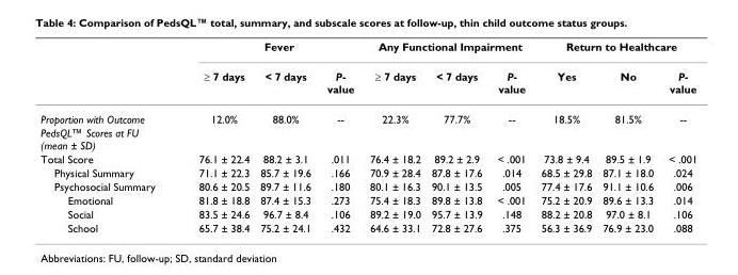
<table><thead><tr><td rowspan="2"></td><td colspan="3">Fever</td><td colspan="3">Any Functional Impairment</td><td colspan="3">Return to Healthcare</td></tr><tr><td>≥ 7 days</td><td>&lt; 7 days</td><td>P- value</td><td>≥ 7 days</td><td>&lt; 7 days</td><td>P- value</td><td>Yes</td><td>No</td><td>P- value</td></tr></thead><tbody><tr><td>Proportion with Outcome</td><td>12.0%</td><td>88.0%</td><td>--</td><td>22.3%</td><td>77.7%</td><td>--</td><td>18.5%</td><td>81.5%</td><td>--</td></tr><tr><td colspan="10">PedsQL™ Scores at FU (mean ± SD)</td></tr><tr><td>Total Score</td><td>76.1 ± 22.4</td><td>88.2 ± 3.1</td><td>.011</td><td>76.4 ± 18.2</td><td>89.2 ± 2.9</td><td>&lt; .001</td><td>73.8 ± 9.4</td><td>89.5 ± 1.9</td><td>&lt; .001</td></tr><tr><td>Physical Summary</td><td>71.1 ± 22.3</td><td>85.7 ± 19.6</td><td>.166</td><td>70.9 ± 28.4</td><td>87.8 ± 17.6</td><td>.014</td><td>68.5 ± 29.8</td><td>87.1 ± 18.0</td><td>.024</td></tr><tr><td>Psychosocial Summary</td><td>80.6 ± 20.5</td><td>89.7 ± 11.6</td><td>.180</td><td>80.1 ± 16.3</td><td>90.1 ± 13.5</td><td>.005</td><td>77.4 ± 17.6</td><td>91.1 ± 10.6</td><td>.006</td></tr><tr><td>Emotional</td><td>81.8 ± 18.8</td><td>87.4 ± 15.3</td><td>.273</td><td>75.4 ± 18.3</td><td>89.8 ± 13.8</td><td>&lt; .001</td><td>75.2 ± 20.9</td><td>89.6 ± 13.3</td><td>.014</td></tr><tr><td>Social</td><td>83.5 ± 24.6</td><td>96.7 ± 8.4</td><td>.106</td><td>89.2 ± 19.0</td><td>95.7 ± 13.9</td><td>.148</td><td>88.2 ± 20.8</td><td>97.0 ± 8.1</td><td>.106</td></tr><tr><td>School</td><td>65.7 ± 38.4</td><td>75.2 ± 24.1</td><td>.432</td><td>64.6 ± 33.1</td><td>72.8 ± 27.6</td><td>.375</td><td>56.3 ± 36.9</td><td>76.9 ± 23.0</td><td>.088</td></tr></tbody></table>